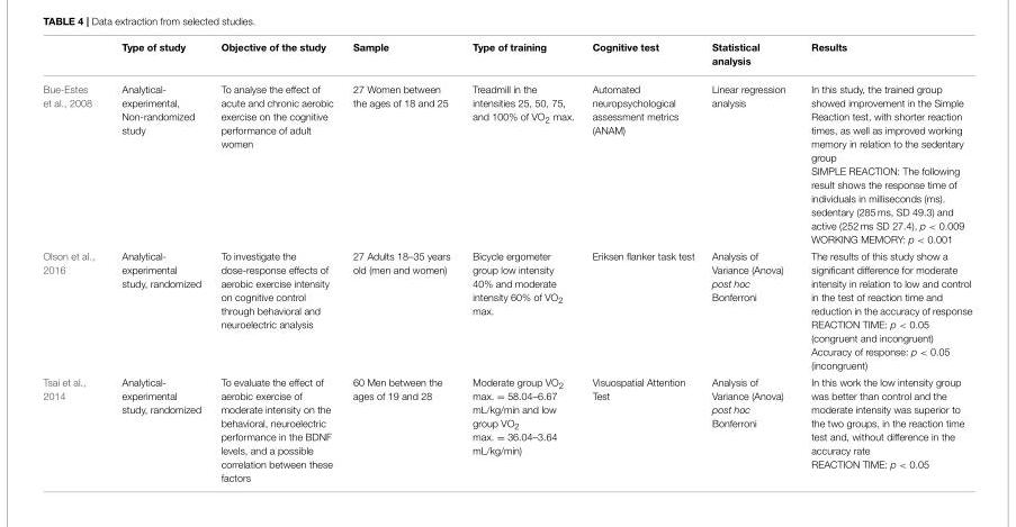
<table><thead><tr><td></td><td>Type of study</td><td>Objective of the study</td><td>Sample</td><td>Type of training</td><td>Cognitive test</td><td>Statistical analysis</td><td>Results</td></tr></thead><tbody><tr><td>Bue-Estes et al., 2008</td><td>Analytical- experimental, Non-randomized study</td><td>To analyse the effect of acute and chronic aerobic exercise on the cognitive performance of adult women</td><td>27 Women between the ages of 18 and 25</td><td>Treadmill in the intensities 25, 50, 75, and 100% of VO<sub>2</sub> max.</td><td>Automated neuropsychological assessment metrics (ANAM)</td><td>Linear regression analysis</td><td>In this study, the trained group showed improvement in the Simple Reaction test, with shorter reaction times, as well as improved working memory in relation to the sedentary group SIMPLE REACTION: The following result shows the response time of individuals in milliseconds (ms). sedentary (285 ms, SD 49.3) and active (252 ms SD 27.4), p &lt; 0.009 WORKING MEMORY: p &lt; 0.001</td></tr><tr><td>Olson et al., 2016</td><td>Analytical- experimental study, randomized</td><td>To investigate the dose-response effects of aerobic exercise intensity on cognitive control through behavioral and neuroelectric analysis</td><td>27 Adults 18–35 years old (men and women)</td><td>Bicycle ergometer group low intensity 40% and moderate intensity 60% of VO<sub>2</sub> max.</td><td>Eriksen flanker task test</td><td>Analysis of Variance (Anova) post hoc Bonferroni</td><td>The results of this study show a significant difference for moderate intensity in relation to low and control in the test of reaction time and reduction in the accuracy of response REACTION TIME: p &lt; 0.05 (congruent and incongruent) Accuracy of response: p &lt; 0.05 (incongruent)</td></tr><tr><td>Tsai et al., 2014</td><td>Analytical- experimental study, randomized</td><td>To evaluate the effect of aerobic exercise of moderate intensity on the behavioral, neuroelectric performance in the BDNF levels, and a possible correlation between these factors</td><td>60 Men between the ages of 19 and 28</td><td>Moderate group VO<sub>2</sub> max. = 58.04–6.67 mL/kg/min and low group VO<sub>2</sub> max. = 36.04–3.64 mL/kg/min)</td><td>Visuospatial Attention Test</td><td>Analysis of Variance (Anova) post hoc Bonferroni</td><td>In this work the low intensity group was better than control and the moderate intensity was superior to the two groups, in the reaction time test and, without difference in the accuracy rate REACTION TIME: p &lt; 0.05</td></tr></tbody></table>